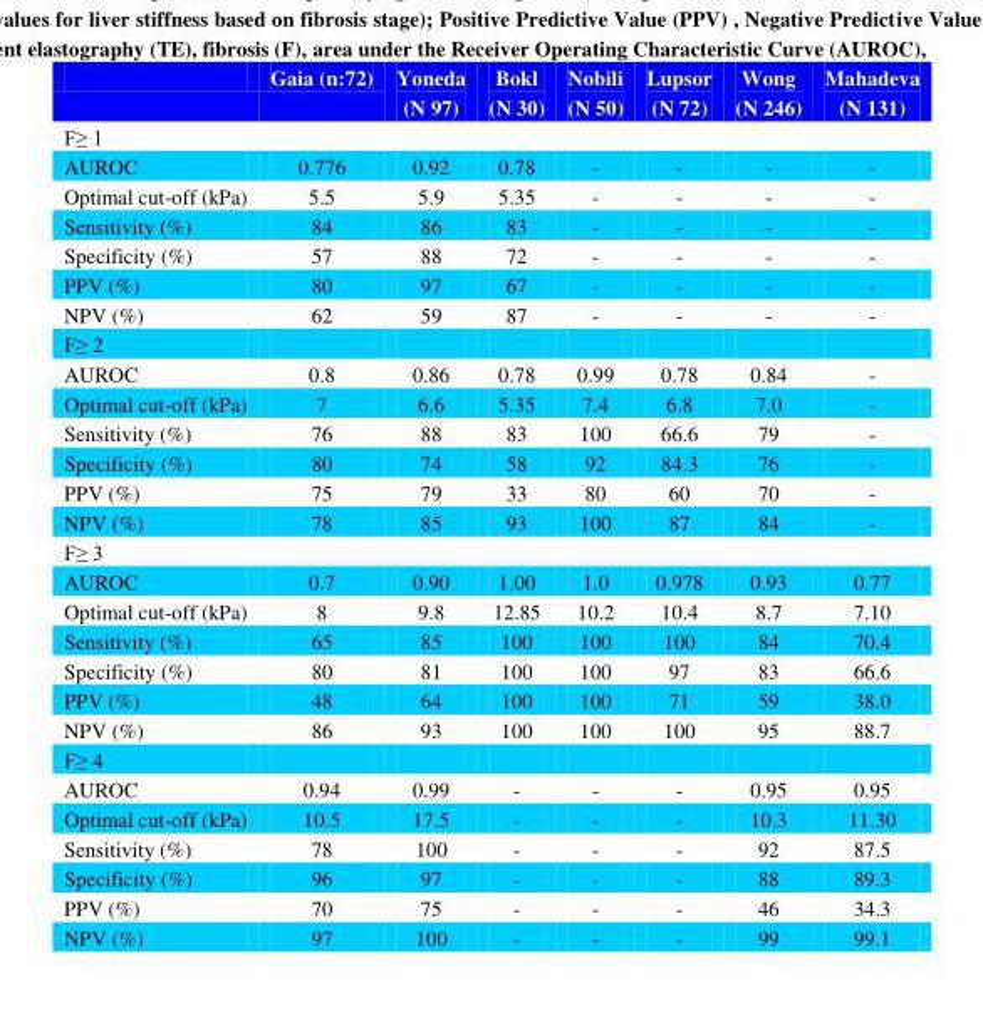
<table><thead><tr><td></td><td>Gaia (n:72)</td><td>Yoneda (N 97)</td><td>Bokl (N 30)</td><td>Nobili (N 50)</td><td>Lupsor (N 72)</td><td>Wong (N 246)</td><td>Mahadeva (N 131)</td></tr></thead><tbody><tr><td colspan="8">F≥ 1</td></tr><tr><td>AUROC</td><td>0.776</td><td>0.92</td><td>0.78</td><td>-</td><td>-</td><td>-</td><td>-</td></tr><tr><td>Optimal cut-off (kPa)</td><td>5.5</td><td>5.9</td><td>5.35</td><td>-</td><td>-</td><td>-</td><td>-</td></tr><tr><td>Sensitivity (%)</td><td>84</td><td>86</td><td>83</td><td>-</td><td>-</td><td>-</td><td>-</td></tr><tr><td>Specificity (%)</td><td>57</td><td>88</td><td>72</td><td>-</td><td>-</td><td>-</td><td>-</td></tr><tr><td>PPV (%)</td><td>80</td><td>97</td><td>67</td><td>-</td><td>-</td><td>-</td><td>-</td></tr><tr><td>NPV (%)</td><td>62</td><td>59</td><td>87</td><td>-</td><td>-</td><td>-</td><td>-</td></tr><tr><td colspan="8">F≥ 2</td></tr><tr><td>AUROC</td><td>0.8</td><td>0.86</td><td>0.78</td><td>0.99</td><td>0.78</td><td>0.84</td><td>-</td></tr><tr><td>Optimal cut-off (kPa)</td><td>7</td><td>6.6</td><td>5.35</td><td>7.4</td><td>6.8</td><td>7.0</td><td>-</td></tr><tr><td>Sensitivity (%)</td><td>76</td><td>88</td><td>83</td><td>100</td><td>66.6</td><td>79</td><td>-</td></tr><tr><td>Specificity (%)</td><td>80</td><td>74</td><td>58</td><td>92</td><td>84.3</td><td>76</td><td>-</td></tr><tr><td>PPV (%)</td><td>75</td><td>79</td><td>33</td><td>80</td><td>60</td><td>70</td><td>-</td></tr><tr><td>NPV (%)</td><td>78</td><td>85</td><td>93</td><td>100</td><td>87</td><td>84</td><td>-</td></tr><tr><td colspan="8">F≥ 3</td></tr><tr><td>AUROC</td><td>0.7</td><td>0.90</td><td>1.00</td><td>1.0</td><td>0.978</td><td>0.93</td><td>0.77</td></tr><tr><td>Optimal cut-off (kPa)</td><td>8</td><td>9.8</td><td>12.85</td><td>10.2</td><td>10.4</td><td>8.7</td><td>7.10</td></tr><tr><td>Sensitivity (%)</td><td>65</td><td>85</td><td>100</td><td>100</td><td>100</td><td>84</td><td>70.4</td></tr><tr><td>Specificity (%)</td><td>80</td><td>81</td><td>100</td><td>100</td><td>97</td><td>83</td><td>66.6</td></tr><tr><td>PPV (%)</td><td>48</td><td>64</td><td>100</td><td>100</td><td>71</td><td>59</td><td>38.0</td></tr><tr><td>NPV (%)</td><td>86</td><td>93</td><td>100</td><td>100</td><td>100</td><td>95</td><td>88.7</td></tr><tr><td colspan="8">F≥ 4</td></tr><tr><td>AUROC</td><td>0.94</td><td>0.99</td><td>-</td><td>-</td><td>-</td><td>0.95</td><td>0.95</td></tr><tr><td>Optimal cut-off (kPa)</td><td>10.5</td><td>17.5</td><td>-</td><td>-</td><td>-</td><td>10.3</td><td>11.30</td></tr><tr><td>Sensitivity (%)</td><td>78</td><td>100</td><td>-</td><td>-</td><td>-</td><td>92</td><td>87.5</td></tr><tr><td>Specificity (%)</td><td>96</td><td>97</td><td>-</td><td>-</td><td>-</td><td>88</td><td>89.3</td></tr><tr><td>PPV (%)</td><td>70</td><td>75</td><td>-</td><td>-</td><td>-</td><td>46</td><td>34.3</td></tr><tr><td>NPV (%)</td><td>97</td><td>100</td><td>-</td><td>-</td><td>-</td><td>99</td><td>99.1</td></tr></tbody></table>